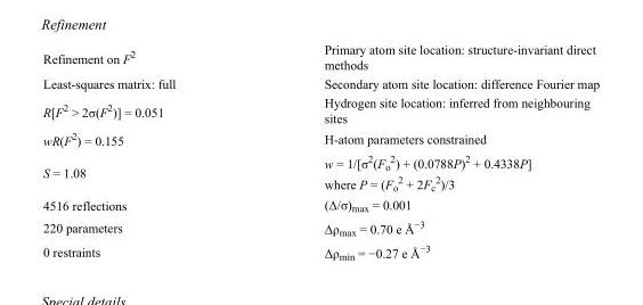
<table><tbody><tr><td>Refinement on F<sup>2</sup></td><td>Primary atom site location: structure-invariant direct methods</td></tr><tr><td>Least-squares matrix: full</td><td>Secondary atom site location: difference Fourier map</td></tr><tr><td>R[F<sup>2</sup> &gt; 2σ(F<sup>2</sup>)] = 0.051</td><td>Hydrogen site location: inferred from neighbouring sites</td></tr><tr><td>wR(F<sup>2</sup>) = 0.155</td><td>H-atom parameters constrained</td></tr><tr><td>S = 1.08</td><td>w = 1/[σ<sup>2</sup>(F<sub>o</sub> <sup>2</sup>) + (0.0788P)<sup>2</sup> + 0.4338P] where P = (F<sub>o</sub> <sup>2</sup> + 2F<sub>c</sub> <sup>2</sup>)/3</td></tr><tr><td>4516 reflections</td><td>(Δ/σ)<sub>max</sub> = 0.001</td></tr><tr><td>220 parameters</td><td>Δρ<sub>max</sub> = 0.70 e Å<sup>−3</sup></td></tr><tr><td>0 restraints</td><td>Δρmin = −0.27 e Å−3</td></tr></tbody></table>